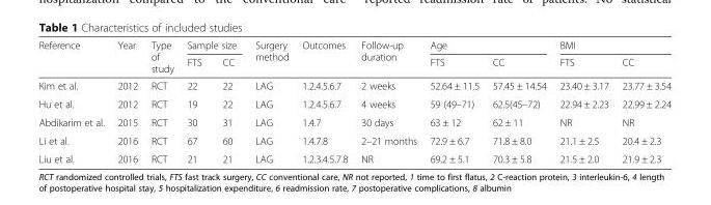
<table><thead><tr><td rowspan="2">Reference</td><td rowspan="2">Year</td><td rowspan="2">Type of study</td><td colspan="2">Sample size</td><td rowspan="2">Surgery method</td><td rowspan="2">Outcomes</td><td rowspan="2">Follow-up duration</td><td colspan="2">Age</td><td colspan="2">BMI</td></tr><tr><td>FTS</td><td>CC</td><td>FTS</td><td>CC</td><td>FTS</td><td>CC</td></tr></thead><tbody><tr><td>Kim et al.</td><td>2012</td><td>RCT</td><td>22</td><td>22</td><td>LAG</td><td>1.2.4.5.6.7</td><td>2 weeks</td><td>52.64 ± 11.5</td><td>57.45 ± 14.54</td><td>23.40 ± 3.17</td><td>23.77 ± 3.54</td></tr><tr><td>Hu et al.</td><td>2012</td><td>RCT</td><td>19</td><td>22</td><td>LAG</td><td>1.2.4.5.6.7</td><td>4 weeks</td><td>59 (49–71)</td><td>62.5(45–72)</td><td>22.94 ± 2.23</td><td>22.99 ± 2.24</td></tr><tr><td>Abdikarim et al.</td><td>2015</td><td>RCT</td><td>30</td><td>31</td><td>LAG</td><td>1.4.7</td><td>30 days</td><td>63 ± 12</td><td>62 ± 11</td><td>NR</td><td>NR</td></tr><tr><td>Li et al.</td><td>2016</td><td>RCT</td><td>67</td><td>60</td><td>LAG</td><td>1.4.7.8</td><td>2–21 months</td><td>72.9 ± 6.7</td><td>71.8 ± 8.0</td><td>21.1 ± 2.5</td><td>20.4 ± 2.3</td></tr><tr><td>Liu et al.</td><td>2016</td><td>RCT</td><td>21</td><td>21</td><td>LAG</td><td>1.2.3.4.5.7.8</td><td>NR</td><td>69.2 ± 5.1</td><td>70.3 ± 5.8</td><td>21.5 ± 2.0</td><td>21.9 ± 2.3</td></tr></tbody></table>